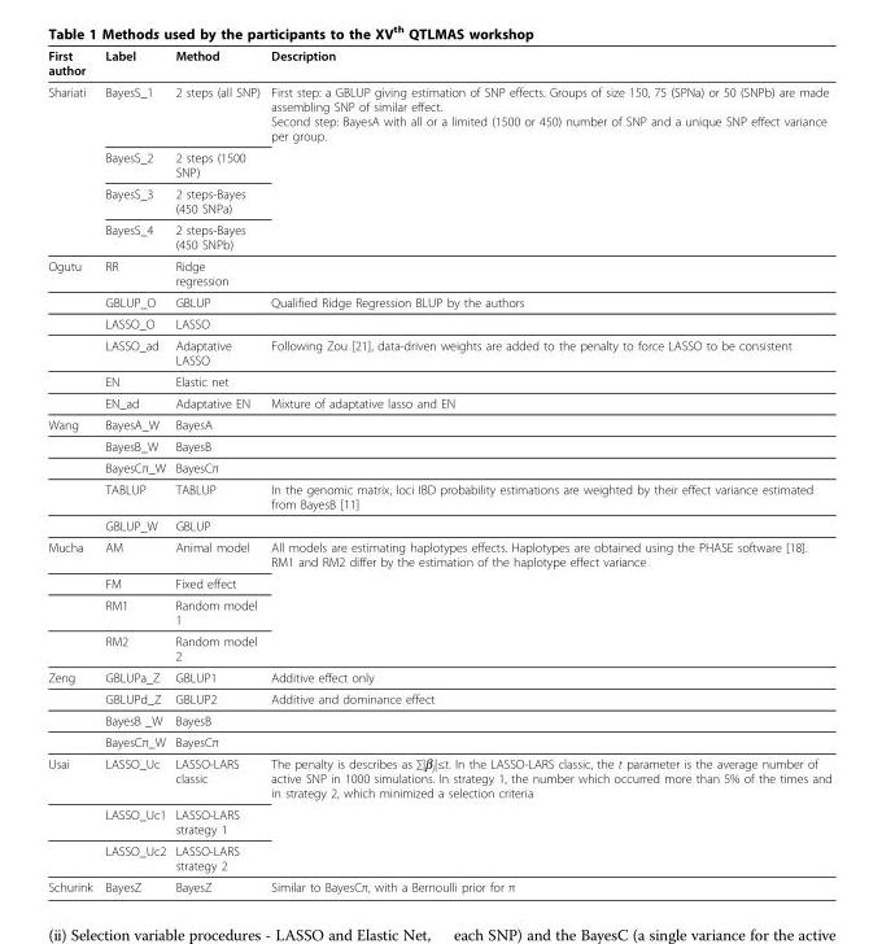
<table><thead><tr><td>First author</td><td>Label</td><td>Method</td><td>Description</td></tr></thead><tbody><tr><td rowspan="4">Shariati</td><td>BayesS_1</td><td>2 steps (all SNP)</td><td>First step: a GBLUP giving estimation of SNP effects. Groups of size 150, 75 (SPNa) or 50 (SNPb) are made assembling SNP of similar effect. Second step: BayesA with all or a limited (1500 or 450) number of SNP and a unique SNP effect variance per group.</td></tr><tr><td>BayesS_2</td><td>2 steps (1500 SNP)</td><td></td></tr><tr><td>BayesS_3</td><td>2 steps-Bayes (450 SNPa)</td><td></td></tr><tr><td>BayesS_4</td><td>2 steps-Bayes (450 SNPb)</td><td></td></tr><tr><td rowspan="6">Ogutu</td><td>RR</td><td>Ridge regression</td><td></td></tr><tr><td>GBLUP_O</td><td>GBLUP</td><td>Qualified Ridge Regression BLUP by the authors</td></tr><tr><td>LASSO_O</td><td>LASSO</td><td></td></tr><tr><td>LASSO_ad</td><td>Adaptative LASSO</td><td>Following Zou [21], data-driven weights are added to the penalty to force LASSO to be consistent</td></tr><tr><td>EN</td><td>Elastic net</td><td></td></tr><tr><td>EN_ad</td><td>Adaptative EN</td><td>Mixture of adaptative lasso and EN</td></tr><tr><td rowspan="5">Wang</td><td>BayesA_W</td><td>BayesA</td><td></td></tr><tr><td>BayesB_W</td><td>BayesB</td><td></td></tr><tr><td>BayesCπ_W</td><td>BayesCπ</td><td></td></tr><tr><td>TABLUP</td><td>TABLUP</td><td>In the genomic matrix, loci IBD probability estimations are weighted by their effect variance estimated from BayesB [11]</td></tr><tr><td>GBLUP_W</td><td>GBLUP</td><td></td></tr><tr><td rowspan="4">Mucha</td><td>AM</td><td>Animal model</td><td>All models are estimating haplotypes effects. Haplotypes are obtained using the PHASE software [18]. RM1 and RM2 differ by the estimation of the haplotype effect variance</td></tr><tr><td>FM</td><td>Fixed effect</td><td></td></tr><tr><td>RM1</td><td>Random model 1</td><td></td></tr><tr><td>RM2</td><td>Random model 2</td><td></td></tr><tr><td rowspan="4">Zeng</td><td>GBLUPa_Z</td><td>GBLUP1</td><td>Additive effect only</td></tr><tr><td>GBLUPd_Z</td><td>GBLUP2</td><td>Additive and dominance effect</td></tr><tr><td>BayesB _W</td><td>BayesB</td><td></td></tr><tr><td>BayesCπ_W</td><td>BayesCπ</td><td></td></tr><tr><td rowspan="3">Usai</td><td>LASSO_Uc</td><td>LASSO-LARS classic</td><td>The penalty is describes as ∑|β<sub>j</sub>|≤t. In the LASSO-LARS classic, the t parameter is the average number of active SNP in 1000 simulations. In strategy 1, the number which occurred more than 5% of the times and in strategy 2, which minimized a selection criteria</td></tr><tr><td>LASSO_Uc1</td><td>LASSO-LARS strategy 1</td><td></td></tr><tr><td>LASSO_Uc2</td><td>LASSO-LARS strategy 2</td><td></td></tr><tr><td>Schurink</td><td>BayesZ</td><td>BayesZ</td><td>Similar to BayesCπ, with a Bernoulli prior for π</td></tr></tbody></table>